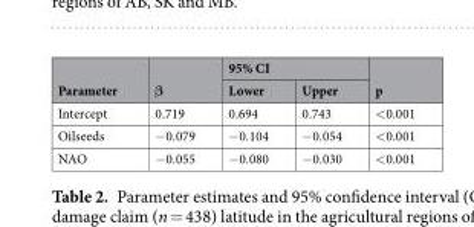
<table><thead><tr><td rowspan="2">Parameter</td><td rowspan="2">β</td><td colspan="2">95% CI</td><td rowspan="2">p</td></tr><tr><td>Lower</td><td>Upper</td></tr></thead><tbody><tr><td>Intercept</td><td>0.719</td><td>0.694</td><td>0.743</td><td>&lt;0.001</td></tr><tr><td>Oilseeds</td><td>−0.079</td><td>−0.104</td><td>−0.054</td><td>&lt;0.001</td></tr><tr><td>NAO</td><td>−0.055</td><td>−0.080</td><td>−0.030</td><td>&lt;0.001</td></tr></tbody></table>